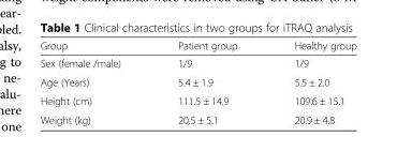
<table><thead><tr><td>Group</td><td>Patient group</td><td>Healthy group</td></tr></thead><tbody><tr><td>Sex (female /male)</td><td>1/9</td><td>1/9</td></tr><tr><td>Age (Years)</td><td>5.4 ± 1.9</td><td>5.5 ± 2.0</td></tr><tr><td>Height (cm)</td><td>111.5 ± 14.9</td><td>109.6 ± 15.1</td></tr><tr><td>Weight (kg)</td><td>20.5 ± 5.1</td><td>20.9 ± 4.8</td></tr></tbody></table>